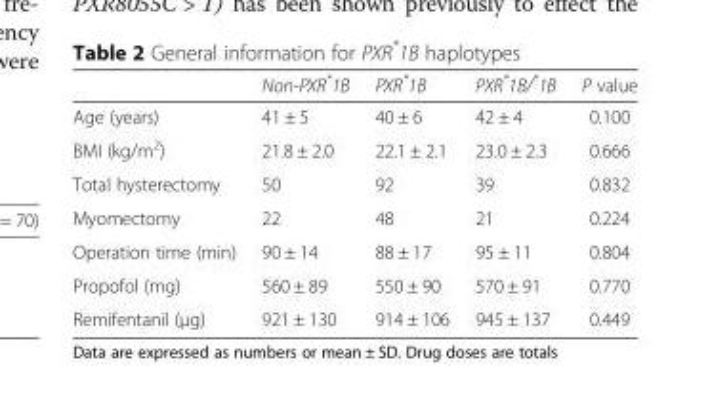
<table><thead><tr><td></td><td>Non-PXR*1B</td><td>PXR*1B</td><td>PXR*1B/*1B</td><td>P value</td></tr></thead><tbody><tr><td>Age (years)</td><td>41 ± 5</td><td>40 ± 6</td><td>42 ± 4</td><td>0.100</td></tr><tr><td>BMI (kg/m<sup>2</sup>)</td><td>21.8 ± 2.0</td><td>22.1 ± 2.1</td><td>23.0 ± 2.3</td><td>0.666</td></tr><tr><td>Total hysterectomy</td><td>50</td><td>92</td><td>39</td><td>0.832</td></tr><tr><td>Myomectomy</td><td>22</td><td>48</td><td>21</td><td>0.224</td></tr><tr><td>Operation time (min)</td><td>90 ± 14</td><td>88 ± 17</td><td>95 ± 11</td><td>0.804</td></tr><tr><td>Propofol (mg)</td><td>560 ± 89</td><td>550 ± 90</td><td>570 ± 91</td><td>0.770</td></tr><tr><td>Remifentanil (μg)</td><td>921 ± 130</td><td>914 ± 106</td><td>945 ± 137</td><td>0.449</td></tr></tbody></table>